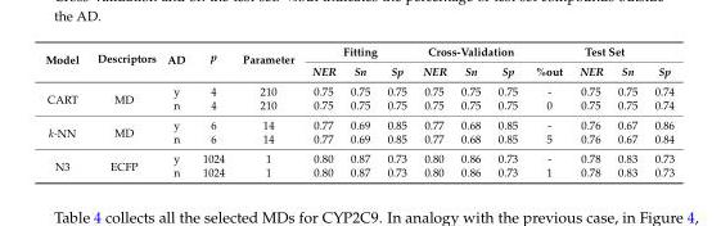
<table><thead><tr><td rowspan="2">Model</td><td rowspan="2">Descriptors</td><td rowspan="2">AD</td><td rowspan="2">p</td><td rowspan="2">Parameter</td><td colspan="3">Fitting</td><td colspan="3">Cross-Validation</td><td colspan="4">Test Set</td></tr><tr><td>NER</td><td>Sn</td><td>Sp</td><td>NER</td><td>Sn</td><td>Sp</td><td>%out</td><td>NER</td><td>Sn</td><td>Sp</td></tr></thead><tbody><tr><td rowspan="2">CART</td><td rowspan="2">MD</td><td>y</td><td>4</td><td>210</td><td>0.75</td><td>0.75</td><td>0.75</td><td>0.75</td><td>0.75</td><td>0.75</td><td>-</td><td>0.75</td><td>0.75</td><td>0.74</td></tr><tr><td>n</td><td>4</td><td>210</td><td>0.75</td><td>0.75</td><td>0.75</td><td>0.75</td><td>0.75</td><td>0.75</td><td>0</td><td>0.75</td><td>0.75</td><td>0.74</td></tr><tr><td rowspan="2">k-NN</td><td rowspan="2">MD</td><td>y</td><td>6</td><td>14</td><td>0.77</td><td>0.69</td><td>0.85</td><td>0.77</td><td>0.68</td><td>0.85</td><td>-</td><td>0.76</td><td>0.67</td><td>0.86</td></tr><tr><td>n</td><td>6</td><td>14</td><td>0.77</td><td>0.69</td><td>0.85</td><td>0.77</td><td>0.68</td><td>0.85</td><td>5</td><td>0.76</td><td>0.67</td><td>0.84</td></tr><tr><td rowspan="2">N3</td><td rowspan="2">ECFP</td><td>y</td><td>1024</td><td>1</td><td>0.80</td><td>0.87</td><td>0.73</td><td>0.80</td><td>0.86</td><td>0.73</td><td>-</td><td>0.78</td><td>0.83</td><td>0.73</td></tr><tr><td>n</td><td>1024</td><td>1</td><td>0.80</td><td>0.87</td><td>0.73</td><td>0.80</td><td>0.86</td><td>0.73</td><td>1</td><td>0.78</td><td>0.83</td><td>0.73</td></tr></tbody></table>